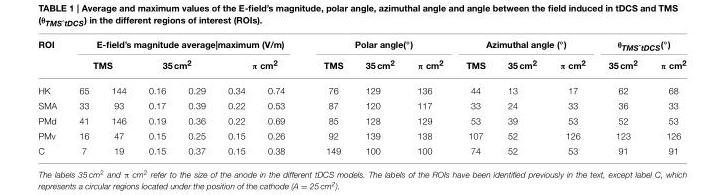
<table><thead><tr><td rowspan="3">ROI HK</td><td colspan="6">E-field’s magnitude average|maximum (V/m)</td><td colspan="3">Polar angle(◦)</td><td colspan="3">Azimuthal angle (◦)</td><td colspan="2">θTMSˆtDCS(◦)</td></tr><tr><td colspan="2">TMS</td><td colspan="2">35 cm2</td><td colspan="2">π cm2</td><td rowspan="2">TMS 76</td><td rowspan="2">35 cm2 129</td><td rowspan="2">π cm2 136</td><td rowspan="2">TMS 44</td><td rowspan="2">35 cm2 13</td><td rowspan="2">π cm2 17</td><td rowspan="2">35 cm2 62</td><td rowspan="2">π cm2 68</td></tr><tr><td>65</td><td>144</td><td>0.16</td><td>0.29</td><td>0.34</td><td>0.74</td></tr></thead><tbody><tr><td>SMA</td><td>33</td><td>93</td><td>0.17</td><td>0.39</td><td>0.22</td><td>0.53</td><td>87</td><td>120</td><td>117</td><td>33</td><td>24</td><td>33</td><td>36</td><td>33</td></tr><tr><td>PMd</td><td>41</td><td>146</td><td>0.19</td><td>0.36</td><td>0.22</td><td>0.69</td><td>85</td><td>128</td><td>129</td><td>53</td><td>39</td><td>53</td><td>52</td><td>53</td></tr><tr><td>PMv</td><td>16</td><td>47</td><td>0.15</td><td>0.25</td><td>0.15</td><td>0.26</td><td>92</td><td>139</td><td>138</td><td>107</td><td>52</td><td>126</td><td>123</td><td>126</td></tr><tr><td>C</td><td>7</td><td>19</td><td>0.15</td><td>0.37</td><td>0.15</td><td>0.38</td><td>149</td><td>100</td><td>100</td><td>74</td><td>52</td><td>53</td><td>91</td><td>91</td></tr></tbody></table>